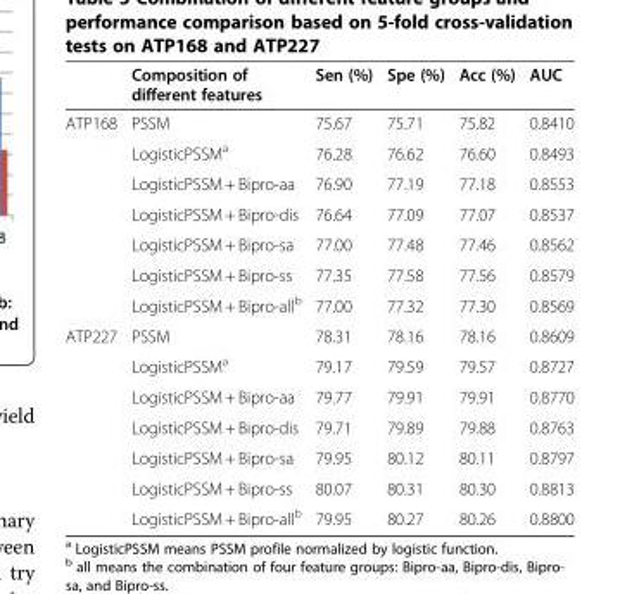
<table><thead><tr><td></td><td>Composition of different features</td><td>Sen (%)</td><td>Spe (%)</td><td>Acc (%)</td><td>AUC</td></tr></thead><tbody><tr><td rowspan="7">ATP168</td><td>PSSM</td><td>75.67</td><td>75.71</td><td>75.82</td><td>0.8410</td></tr><tr><td>LogisticPSSM<sup>a</sup></td><td>76.28</td><td>76.62</td><td>76.60</td><td>0.8493</td></tr><tr><td>LogisticPSSM + Bipro-aa</td><td>76.90</td><td>77.19</td><td>77.18</td><td>0.8553</td></tr><tr><td>LogisticPSSM + Bipro-dis</td><td>76.64</td><td>77.09</td><td>77.07</td><td>0.8537</td></tr><tr><td>LogisticPSSM + Bipro-sa</td><td>77.00</td><td>77.48</td><td>77.46</td><td>0.8562</td></tr><tr><td>LogisticPSSM + Bipro-ss</td><td>77.35</td><td>77.58</td><td>77.56</td><td>0.8579</td></tr><tr><td>LogisticPSSM + Bipro-all<sup>b</sup></td><td>77.00</td><td>77.32</td><td>77.30</td><td>0.8569</td></tr><tr><td rowspan="7">ATP227</td><td>PSSM</td><td>78.31</td><td>78.16</td><td>78.16</td><td>0.8609</td></tr><tr><td>LogisticPSSM<sup>a</sup></td><td>79.17</td><td>79.59</td><td>79.57</td><td>0.8727</td></tr><tr><td>LogisticPSSM + Bipro-aa</td><td>79.77</td><td>79.91</td><td>79.91</td><td>0.8770</td></tr><tr><td>LogisticPSSM + Bipro-dis</td><td>79.71</td><td>79.89</td><td>79.88</td><td>0.8763</td></tr><tr><td>LogisticPSSM + Bipro-sa</td><td>79.95</td><td>80.12</td><td>80.11</td><td>0.8797</td></tr><tr><td>LogisticPSSM + Bipro-ss</td><td>80.07</td><td>80.31</td><td>80.30</td><td>0.8813</td></tr><tr><td>LogisticPSSM + Bipro-all<sup>b</sup></td><td>79.95</td><td>80.27</td><td>80.26</td><td>0.8800</td></tr></tbody></table>